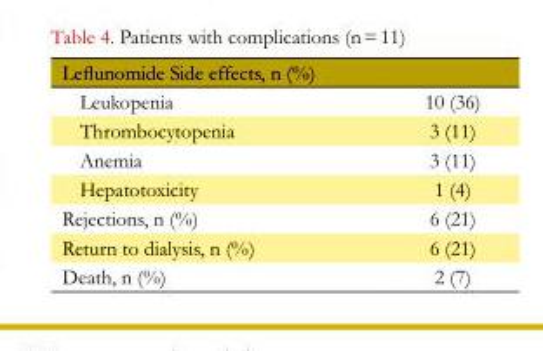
<table><tbody><tr><td colspan="2">Leflunomide Side effects, n (%)</td></tr><tr><td>Leukopenia</td><td>10 (36)</td></tr><tr><td>Thrombocytopenia</td><td>3 (11)</td></tr><tr><td>Anemia</td><td>3 (11)</td></tr><tr><td>Hepatotoxicity</td><td>1 (4)</td></tr><tr><td>Rejections, n (%)</td><td>6 (21)</td></tr><tr><td>Return to dialysis, n (%)</td><td>6 (21)</td></tr><tr><td>Death, n (%)</td><td>2 (7)</td></tr></tbody></table>